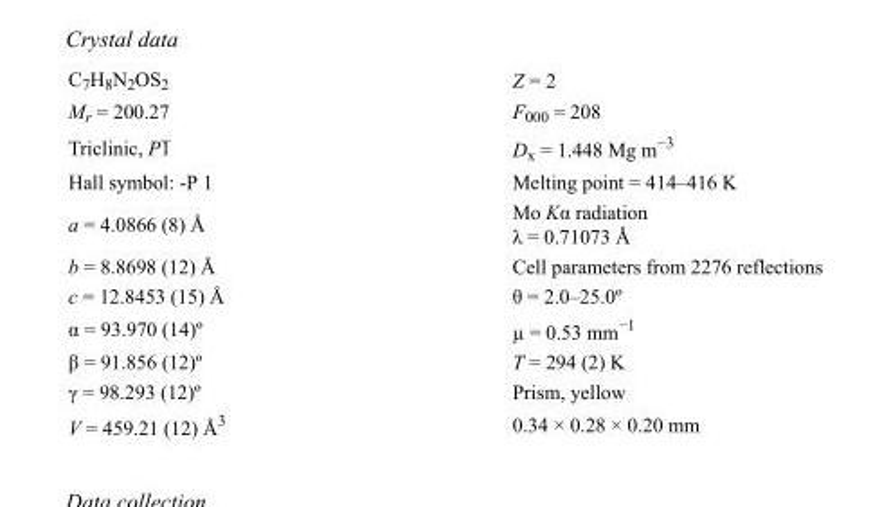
<table><tbody><tr><td>C<sub>7</sub>H<sub>8</sub>N<sub>2</sub>OS<sub>2</sub></td><td>Z = 2</td></tr><tr><td>M<sub>r</sub> = 200.27</td><td>F<sub>000</sub> = 208</td></tr><tr><td>Triclinic, P1</td><td>D<sub>x</sub> = 1.448 Mg m<sup>−3</sup></td></tr><tr><td>Hall symbol: -P 1</td><td>Melting point = 414–416 K</td></tr><tr><td>a = 4.0866 (8) Å</td><td>Mo Kα radiation λ = 0.71073 Å</td></tr><tr><td>b = 8.8698 (12) Å</td><td>Cell parameters from 2276 reflections</td></tr><tr><td>c = 12.8453 (15) Å</td><td>θ = 2.0–25.0º</td></tr><tr><td>α = 93.970 (14)º</td><td>µ = 0.53 mm<sup>−1</sup></td></tr><tr><td>β = 91.856 (12)º</td><td>T = 294 (2) K</td></tr><tr><td>γ = 98.293 (12)º</td><td>Prism, yellow</td></tr><tr><td>V = 459.21 (12) Å<sup>3</sup></td><td>0.34 × 0.28 × 0.20 mm</td></tr></tbody></table>